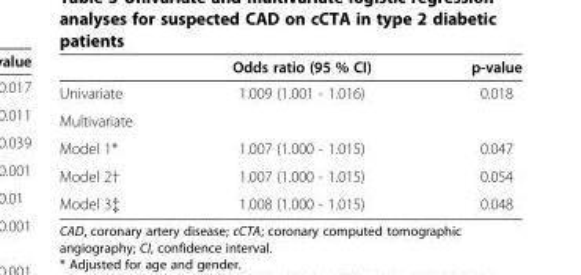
<table><thead><tr><td></td><td>Odds ratio (95 % CI)</td><td>p-value</td></tr></thead><tbody><tr><td>Univariate</td><td>1.009 (1.001 - 1.016)</td><td>0.018</td></tr><tr><td colspan="3">Multivariate</td></tr><tr><td>Model 1*</td><td>1.007 (1.000 - 1.015)</td><td>0.047</td></tr><tr><td>Model 2†</td><td>1.007 (1.000 - 1.015)</td><td>0.054</td></tr><tr><td>Model 3‡</td><td>1.008 (1.000 - 1.015)</td><td>0.048</td></tr></tbody></table>